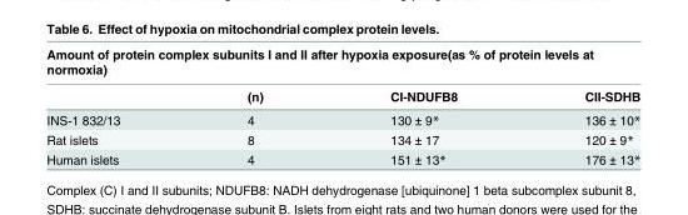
<table><thead><tr><td colspan="4">Amount of protein complex subunits I and II after hypoxia exposure(as % of protein levels at normoxia)</td></tr><tr><td></td><td>(n)</td><td>CI-NDUFB8</td><td>CII-SDHB</td></tr></thead><tbody><tr><td>INS-1 832/13</td><td>4</td><td>130 ± 9*</td><td>136 ± 10*</td></tr><tr><td>Rat islets</td><td>8</td><td>134 ± 17</td><td>120 ± 9*</td></tr><tr><td>Human islets</td><td>4</td><td>151 ± 13*</td><td>176 ± 13*</td></tr></tbody></table>